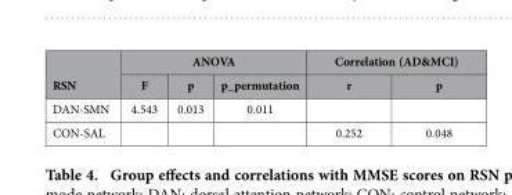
<table><thead><tr><td rowspan="2">RSN</td><td colspan="3">ANOVA</td><td colspan="2">Correlation (AD&amp;MCI)</td></tr><tr><td>F</td><td>p</td><td>p_permutation</td><td>r</td><td>p</td></tr></thead><tbody><tr><td>DAN-SMN</td><td>4.543</td><td>0.013</td><td>0.011</td><td></td><td></td></tr><tr><td>CON-SAL</td><td></td><td></td><td></td><td>0.252</td><td>0.048</td></tr></tbody></table>